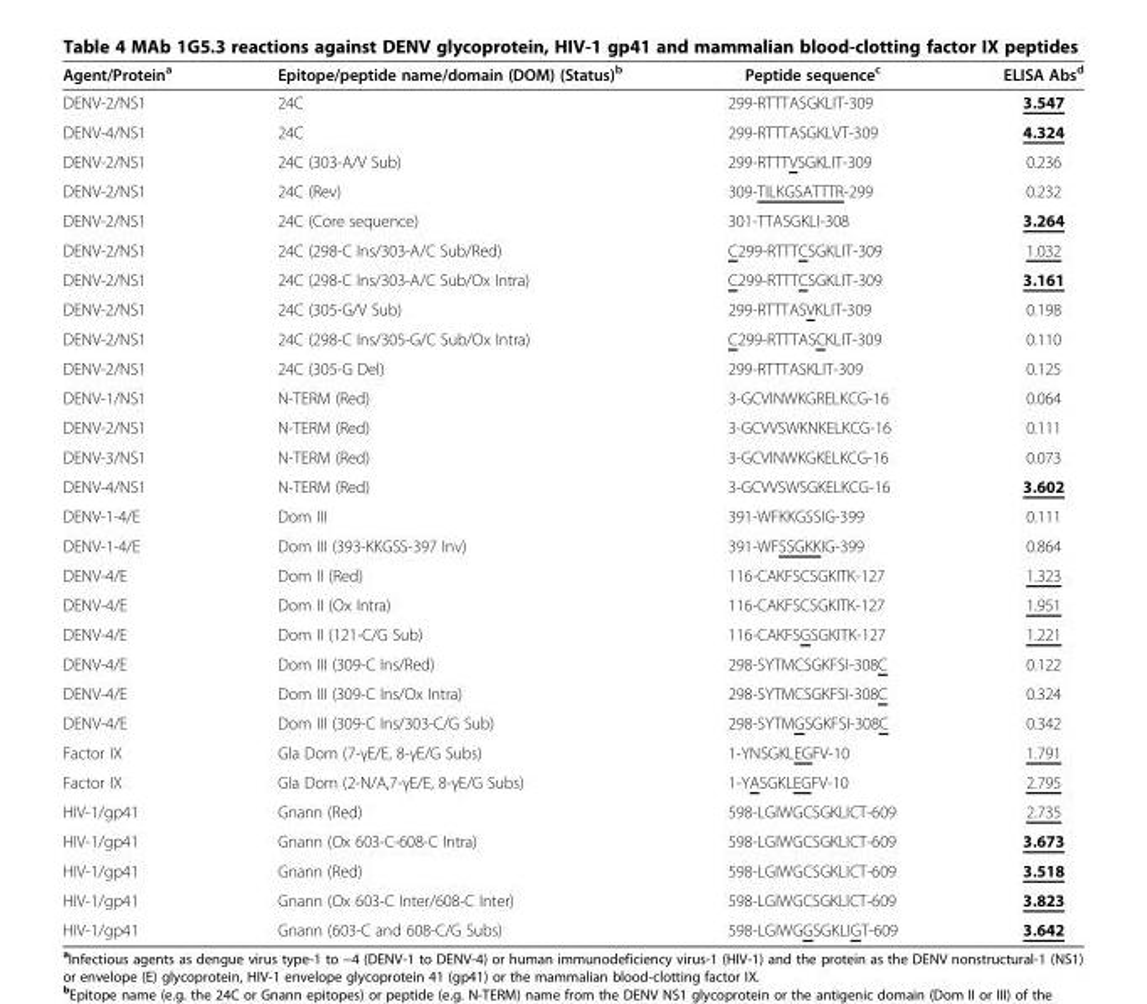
<table><thead><tr><td>Agent/Protein<sup>a</sup></td><td>Epitope/peptide name/domain (DOM) (Status)<sup>b</sup></td><td>Peptide sequence<sup>c</sup></td><td>ELISA Abs<sup>d</sup></td></tr></thead><tbody><tr><td>DENV-2/NS1</td><td>24C</td><td>299-RTTTASGKLIT-309</td><td>3.547</td></tr><tr><td>DENV-4/NS1</td><td>24C</td><td>299-RTTTASGKLVT-309</td><td>4.324</td></tr><tr><td>DENV-2/NS1</td><td>24C (303-A/V Sub)</td><td>299-RTTTVSGKLIT-309</td><td>0.236</td></tr><tr><td>DENV-2/NS1</td><td>24C (Rev)</td><td>309-TILKGSATTTR-299</td><td>0.232</td></tr><tr><td>DENV-2/NS1</td><td>24C (Core sequence)</td><td>301-TTASGKLI-308</td><td>3.264</td></tr><tr><td>DENV-2/NS1</td><td>24C (298-C Ins/303-A/C Sub/Red)</td><td>C299-RTTTCSGKLIT-309</td><td>1.032</td></tr><tr><td>DENV-2/NS1</td><td>24C (298-C Ins/303-A/C Sub/Ox Intra)</td><td>C299-RTTTCSGKLIT-309</td><td>3.161</td></tr><tr><td>DENV-2/NS1</td><td>24C (305-G/V Sub)</td><td>299-RTTTASVKLIT-309</td><td>0.198</td></tr><tr><td>DENV-2/NS1</td><td>24C (298-C Ins/305-G/C Sub/Ox Intra)</td><td>C299-RTTTASCKLIT-309</td><td>0.110</td></tr><tr><td>DENV-2/NS1</td><td>24C (305-G Del)</td><td>299-RTTTASKLIT-309</td><td>0.125</td></tr><tr><td>DENV-1/NS1</td><td>N-TERM (Red)</td><td>3-GCVINWKGRELKCG-16</td><td>0.064</td></tr><tr><td>DENV-2/NS1</td><td>N-TERM (Red)</td><td>3-GCVVSWKNKELKCG-16</td><td>0.111</td></tr><tr><td>DENV-3/NS1</td><td>N-TERM (Red)</td><td>3-GCVINWKGKELKCG-16</td><td>0.073</td></tr><tr><td>DENV-4/NS1</td><td>N-TERM (Red)</td><td>3-GCVVSWSGKELKCG-16</td><td>3.602</td></tr><tr><td>DENV-1-4/E</td><td>Dom III</td><td>391-WFKKGSSIG-399</td><td>0.111</td></tr><tr><td>DENV-1-4/E</td><td>Dom III (393-KKGSS-397 Inv)</td><td>391-WFSSGKKIG-399</td><td>0.864</td></tr><tr><td>DENV-4/E</td><td>Dom II (Red)</td><td>116-CAKFSCSGKITK-127</td><td>1.323</td></tr><tr><td>DENV-4/E</td><td>Dom II (Ox Intra)</td><td>116-CAKFSCSGKITK-127</td><td>1.951</td></tr><tr><td>DENV-4/E</td><td>Dom II (121-C/G Sub)</td><td>116-CAKFSGSGKITK-127</td><td>1.221</td></tr><tr><td>DENV-4/E</td><td>Dom III (309-C Ins/Red)</td><td>298-SYTMCSGKFSI-308C</td><td>0.122</td></tr><tr><td>DENV-4/E</td><td>Dom III (309-C Ins/Ox Intra)</td><td>298-SYTMCSGKFSI-308C</td><td>0.324</td></tr><tr><td>DENV-4/E</td><td>Dom III (309-C Ins/303-C/G Sub)</td><td>298-SYTMGSGKFSI-308C</td><td>0.342</td></tr><tr><td>Factor IX</td><td>Gla Dom (7-γE/E, 8-γE/G Subs)</td><td>1-YNSGKLEGFV-10</td><td>1.791</td></tr><tr><td>Factor IX</td><td>Gla Dom (2-N/A,7-γE/E, 8-γE/G Subs)</td><td>1-YASGKLEGFV-10</td><td>2.795</td></tr><tr><td>HIV-1/gp41</td><td>Gnann (Red)</td><td>598-LGIWGCSGKLICT-609</td><td>2.735</td></tr><tr><td>HIV-1/gp41</td><td>Gnann (Ox 603-C-608-C Intra)</td><td>598-LGIWGCSGKLICT-609</td><td>3.673</td></tr><tr><td>HIV-1/gp41</td><td>Gnann (Red)</td><td>598-LGIWGCSGKLICT-609</td><td>3.518</td></tr><tr><td>HIV-1/gp41</td><td>Gnann (Ox 603-C Inter/608-C Inter)</td><td>598-LGIWGCSGKLICT-609</td><td>3.823</td></tr><tr><td>HIV-1/gp41</td><td>Gnann (603-C and 608-C/G Subs)</td><td>598-LGIWGGSGKLIGT-609</td><td>3.642</td></tr></tbody></table>